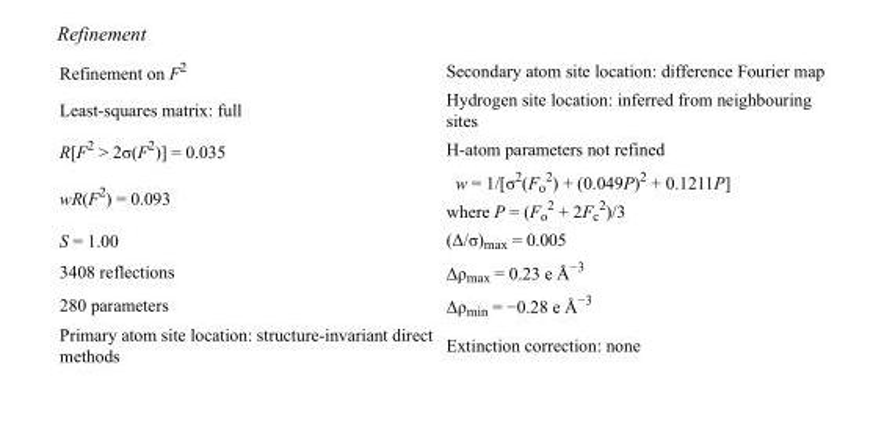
<table><tbody><tr><td>Refinement on F<sup>2</sup></td><td>Secondary atom site location: difference Fourier map</td></tr><tr><td>Least-squares matrix: full</td><td>Hydrogen site location: inferred from neighbouring sites</td></tr><tr><td>R[F<sup>2</sup> &gt; 2σ(F<sup>2</sup>)] = 0.035</td><td>H-atom parameters not refined</td></tr><tr><td>wR(F<sup>2</sup>) = 0.093</td><td>w = 1/[σ<sup>2</sup>(F<sub>o</sub> <sup>2</sup>) + (0.049P)<sup>2</sup> + 0.1211P] where P = (F<sub>o</sub> <sup>2</sup> + 2F<sub>c</sub> <sup>2</sup>)/3</td></tr><tr><td>S = 1.00</td><td>(Δ/σ)<sub>max</sub> = 0.005</td></tr><tr><td>3408 reflections</td><td>Δρ<sub>max</sub> = 0.23 e Å<sup>−3</sup></td></tr><tr><td>280 parameters</td><td>Δρ<sub>min</sub> = −0.28 e Å<sup>−3</sup></td></tr><tr><td>Primary atom site location: structure-invariant direct methods</td><td>Extinction correction: none</td></tr></tbody></table>